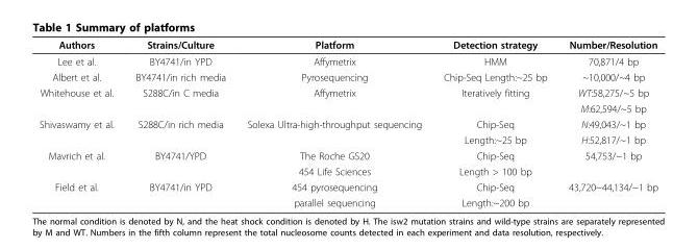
<table><thead><tr><td>Authors</td><td>Strains/Culture</td><td>Platform</td><td>Detection strategy</td><td>Number/Resolution</td></tr></thead><tbody><tr><td>Lee et al.</td><td>BY4741/in YPD</td><td>Affymetrix</td><td>HMM</td><td>70,871/4 bp</td></tr><tr><td>Albert et al.</td><td>BY4741/in rich media</td><td>Pyrosequencing</td><td>Chip-Seq Length:~25 bp</td><td>~10,000/~4 bp</td></tr><tr><td rowspan="2">Whitehouse et al.</td><td>S288C/in C media</td><td>Affymetrix</td><td>Iteratively fitting</td><td>WT:58,275/~5 bp</td></tr><tr><td></td><td></td><td></td><td>M:62,594/~5 bp</td></tr><tr><td rowspan="2">Shivaswamy et al.</td><td>S288C/in rich media</td><td>Solexa Ultra-high-throughput sequencing</td><td>Chip-Seq</td><td>N:49,043/~1 bp</td></tr><tr><td></td><td></td><td>Length:~25 bp</td><td>H:52,817/~1 bp</td></tr><tr><td rowspan="2">Mavrich et al.</td><td>BY4741/YPD</td><td>The Roche GS20</td><td>Chip-Seq</td><td>54,753/~1 bp</td></tr><tr><td></td><td>454 Life Sciences</td><td>Length &gt; 100 bp</td><td></td></tr><tr><td rowspan="2">Field et al.</td><td>BY4741/in YPD</td><td>454 pyrosequencing</td><td>Chip-Seq</td><td>43,720~44,134/~1 bp</td></tr><tr><td></td><td>parallel sequencing</td><td>Length:~200 bp</td><td></td></tr></tbody></table>